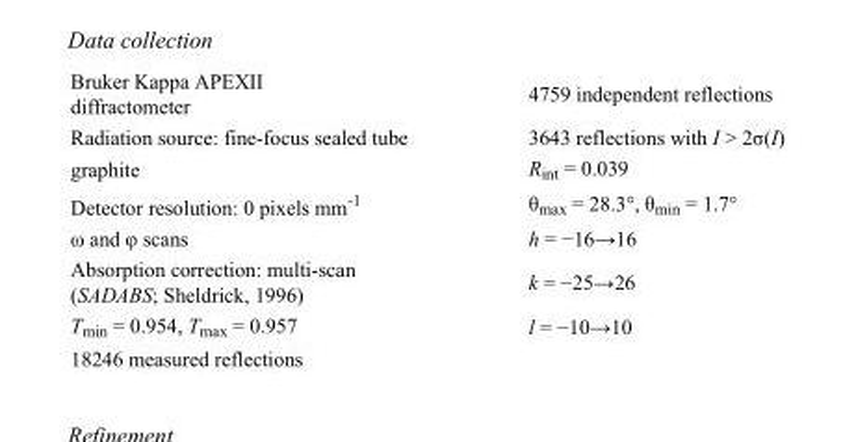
<table><tbody><tr><td>Bruker Kappa APEXII diffractometer</td><td>4759 independent reflections</td></tr><tr><td>Radiation source: fine-focus sealed tube</td><td>3643 reflections with I &gt; 2σ(I)</td></tr><tr><td>graphite</td><td>R<sub>int</sub> = 0.039</td></tr><tr><td>Detector resolution: 0 pixels mm<sup>-1</sup></td><td>θ<sub>max</sub> = 28.3°, θ<sub>min</sub> = 1.7°</td></tr><tr><td>ω and φ scans</td><td>h = −16→16</td></tr><tr><td>Absorption correction: multi-scan (SADABS; Sheldrick, 1996)</td><td>k = −25→26</td></tr><tr><td>T<sub>min</sub> = 0.954, T<sub>max</sub> = 0.957</td><td>l = −10→10</td></tr><tr><td>18246 measured reflections</td><td></td></tr></tbody></table>